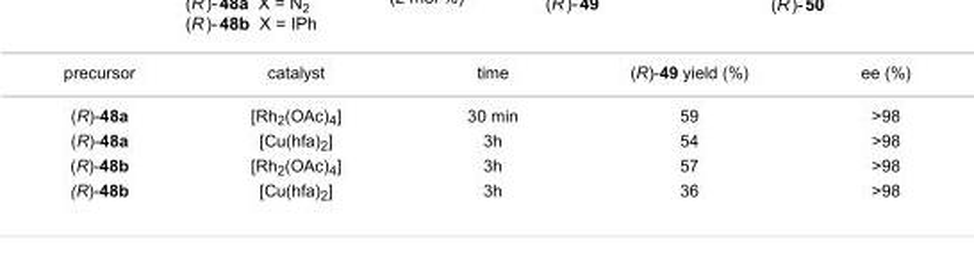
<table><tbody><tr><td>precursor</td><td>catalyst</td><td>time</td><td>(R)-49 yield (%)</td><td>ee (%)</td></tr><tr><td>(R)-48a</td><td>[Rh<sub>2</sub>(OAc)<sub>4</sub>]</td><td>30 min</td><td>59</td><td>&gt;98</td></tr><tr><td>(R)-48a</td><td>[Cu(hfa)<sub>2</sub>]</td><td>3h</td><td>54</td><td>&gt;98</td></tr><tr><td>(R)-48b</td><td>[Rh<sub>2</sub>(OAc)<sub>4</sub>]</td><td>3h</td><td>57</td><td>&gt;98</td></tr><tr><td>(R)-48b</td><td>[Cu(hfa)<sub>2</sub>]</td><td>3h</td><td>36</td><td>&gt;98</td></tr></tbody></table>